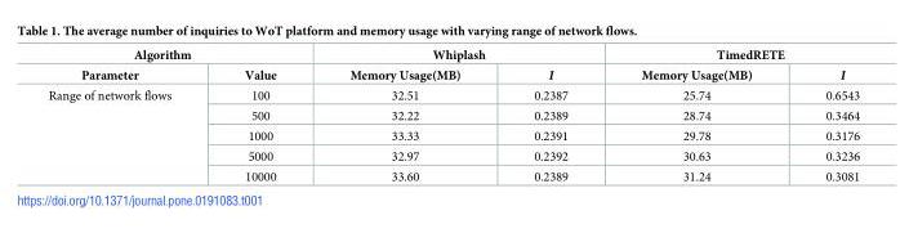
<table><thead><tr><td colspan="2">Algorithm</td><td colspan="2">Whiplash</td><td colspan="2">TimedRETE</td></tr><tr><td>Parameter</td><td>Value</td><td>Memory Usage(MB)</td><td>I</td><td>Memory Usage(MB)</td><td>I</td></tr></thead><tbody><tr><td rowspan="5">Range of network flows</td><td>100</td><td>32.51</td><td>0.2387</td><td>25.74</td><td>0.6543</td></tr><tr><td>500</td><td>32.22</td><td>0.2389</td><td>28.74</td><td>0.3464</td></tr><tr><td>1000</td><td>33.33</td><td>0.2391</td><td>29.78</td><td>0.3176</td></tr><tr><td>5000</td><td>32.97</td><td>0.2392</td><td>30.63</td><td>0.3236</td></tr><tr><td>10000</td><td>33.60</td><td>0.2389</td><td>31.24</td><td>0.3081</td></tr></tbody></table>